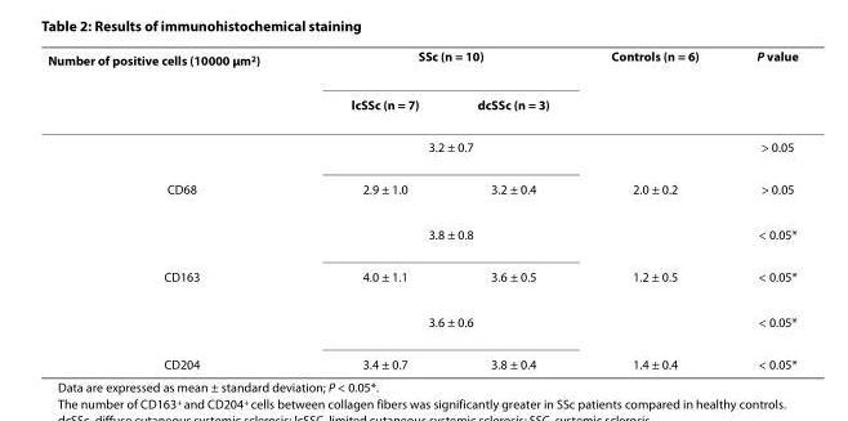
<table><thead><tr><td rowspan="2">Number of positive cells (10000 μm<sup>2</sup>)</td><td colspan="2">SSc (n = 10)</td><td rowspan="2">Controls (n = 6)</td><td rowspan="2">P value</td></tr><tr><td>lcSSc (n = 7)</td><td>dcSSc (n = 3)</td></tr></thead><tbody><tr><td></td><td colspan="2">3.2 ± 0.7</td><td></td><td>&gt; 0.05</td></tr><tr><td rowspan="2">CD68</td><td>2.9 ± 1.0</td><td>3.2 ± 0.4</td><td>2.0 ± 0.2</td><td>&gt; 0.05</td></tr><tr><td colspan="2">3.8 ± 0.8</td><td></td><td>&lt; 0.05*</td></tr><tr><td rowspan="2">CD163</td><td>4.0 ± 1.1</td><td>3.6 ± 0.5</td><td>1.2 ± 0.5</td><td>&lt; 0.05*</td></tr><tr><td colspan="2">3.6 ± 0.6</td><td></td><td>&lt; 0.05*</td></tr><tr><td>CD204</td><td>3.4 ± 0.7</td><td>3.8 ± 0.4</td><td>1.4 ± 0.4</td><td>&lt; 0.05*</td></tr></tbody></table>